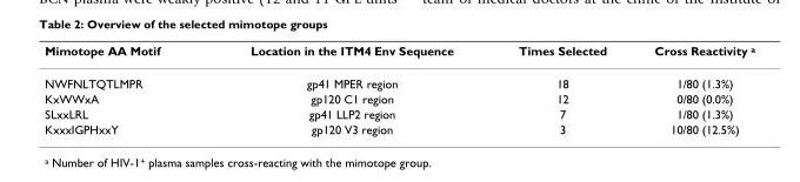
<table><thead><tr><td>Mimotope AA Motif</td><td>Location in the ITM4 Env Sequence</td><td>Times Selected</td><td>Cross Reactivity <sup>a</sup></td></tr></thead><tbody><tr><td>NWFNLTQTLMPR</td><td>gp41 MPER region</td><td>18</td><td>1/80 (1.3%)</td></tr><tr><td>KxWWxA</td><td>gp120 C1 region</td><td>12</td><td>0/80 (0.0%)</td></tr><tr><td>SLxxLRL</td><td>gp41 LLP2 region</td><td>7</td><td>1/80 (1.3%)</td></tr><tr><td>KxxxIGPHxxY</td><td>gp120 V3 region</td><td>3</td><td>10/80 (12.5%)</td></tr></tbody></table>